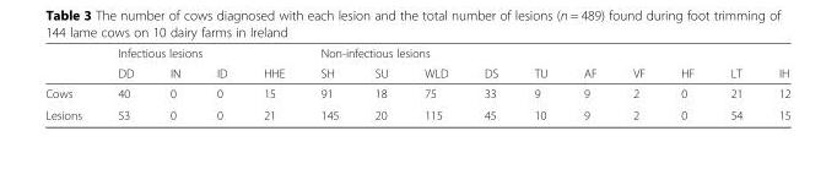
<table><thead><tr><td rowspan="2"></td><td colspan="4">Infectious lesions</td><td colspan="10">Non-infectious lesions</td></tr><tr><td>DD</td><td>IN</td><td>ID</td><td>HHE</td><td>SH</td><td>SU</td><td>WLD</td><td>DS</td><td>TU</td><td>AF</td><td>VF</td><td>HF</td><td>LT</td><td>IH</td></tr></thead><tbody><tr><td>Cows</td><td>40</td><td>0</td><td>0</td><td>15</td><td>91</td><td>18</td><td>75</td><td>33</td><td>9</td><td>9</td><td>2</td><td>0</td><td>21</td><td>12</td></tr><tr><td>Lesions</td><td>53</td><td>0</td><td>0</td><td>21</td><td>145</td><td>20</td><td>115</td><td>45</td><td>10</td><td>9</td><td>2</td><td>0</td><td>54</td><td>15</td></tr></tbody></table>